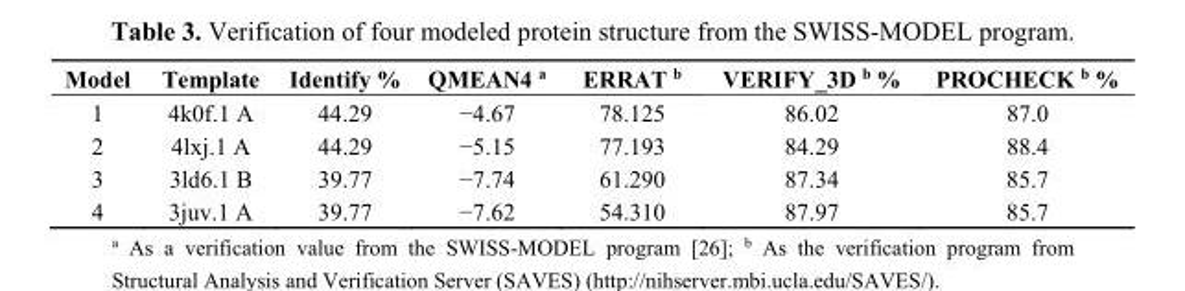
<table><thead><tr><td>Model</td><td>Template</td><td>Identify %</td><td>QMEAN4 <sup>a</sup></td><td>ERRAT <sup>b</sup></td><td>VERIFY_3D <sup>b</sup> %</td><td>PROCHECK <sup>b</sup> %</td></tr></thead><tbody><tr><td>1</td><td>4k0f.1 A</td><td>44.29</td><td>−4.67</td><td>78.125</td><td>86.02</td><td>87.0</td></tr><tr><td>2</td><td>4lxj.1 A</td><td>44.29</td><td>−5.15</td><td>77.193</td><td>84.29</td><td>88.4</td></tr><tr><td>3</td><td>3ld6.1 B</td><td>39.77</td><td>−7.74</td><td>61.290</td><td>87.34</td><td>85.7</td></tr><tr><td>4</td><td>3juv.1 A</td><td>39.77</td><td>−7.62</td><td>54.310</td><td>87.97</td><td>85.7</td></tr></tbody></table>